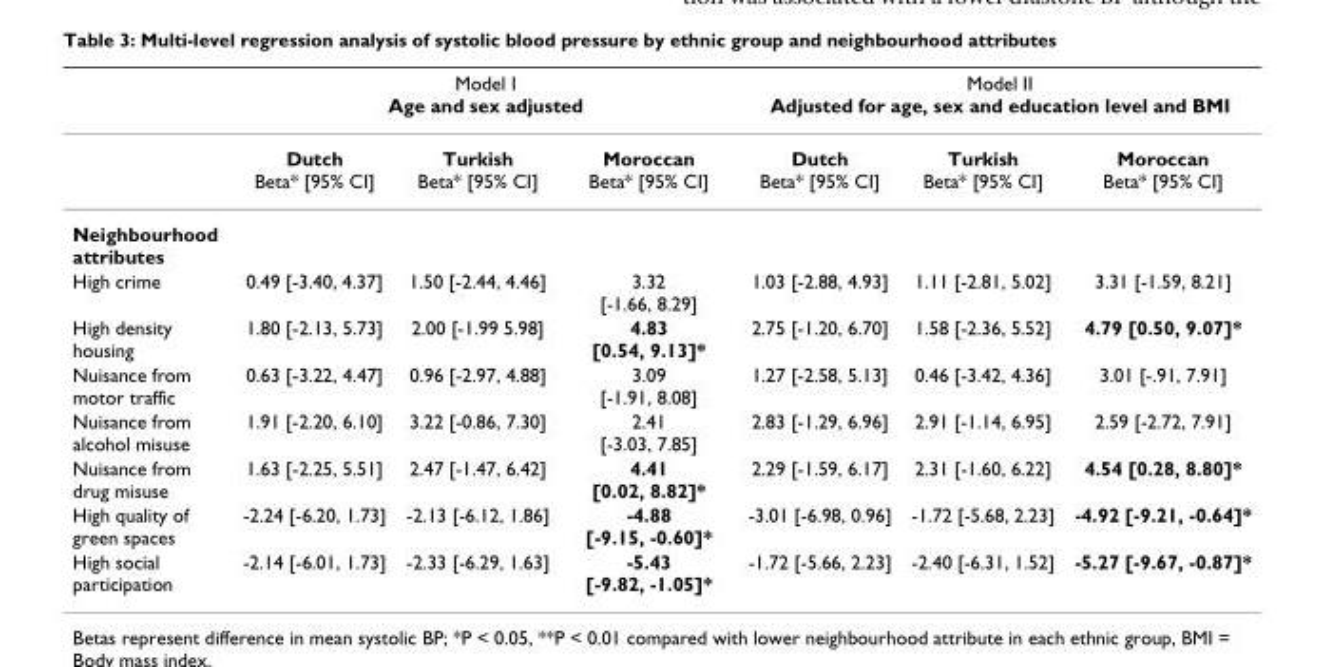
<table><thead><tr><td rowspan="2"></td><td colspan="3">Model I Age and sex adjusted</td><td colspan="3">Model II Adjusted for age, sex and education level and BMI</td></tr><tr><td>Dutch Beta* [95% CI]</td><td>Turkish Beta* [95% CI]</td><td>Moroccan Beta* [95% CI]</td><td>Dutch Beta* [95% CI]</td><td>Turkish Beta* [95% CI]</td><td>Moroccan Beta* [95% CI]</td></tr></thead><tbody><tr><td colspan="7">Neighbourhood attributes</td></tr><tr><td>High crime</td><td>0.49 [-3.40, 4.37]</td><td>1.50 [-2.44, 4.46]</td><td>3.32 [-1.66, 8.29]</td><td>1.03 [-2.88, 4.93]</td><td>1.11 [-2.81, 5.02]</td><td>3.31 [-1.59, 8.21]</td></tr><tr><td>High density housing</td><td>1.80 [-2.13, 5.73]</td><td>2.00 [-1.99 5.98]</td><td>4.83 [0.54, 9.13]*</td><td>2.75 [-1.20, 6.70]</td><td>1.58 [-2.36, 5.52]</td><td>4.79 [0.50, 9.07]*</td></tr><tr><td>Nuisance from motor traffic</td><td>0.63 [-3.22, 4.47]</td><td>0.96 [-2.97, 4.88]</td><td>3.09 [-1.91, 8.08]</td><td>1.27 [-2.58, 5.13]</td><td>0.46 [-3.42, 4.36]</td><td>3.01 [-.91, 7.91]</td></tr><tr><td>Nuisance from alcohol misuse</td><td>1.91 [-2.20, 6.10]</td><td>3.22 [-0.86, 7.30]</td><td>2.41 [-3.03, 7.85]</td><td>2.83 [-1.29, 6.96]</td><td>2.91 [-1.14, 6.95]</td><td>2.59 [-2.72, 7.91]</td></tr><tr><td>Nuisance from drug misuse</td><td>1.63 [-2.25, 5.51]</td><td>2.47 [-1.47, 6.42]</td><td>4.41 [0.02, 8.82]*</td><td>2.29 [-1.59, 6.17]</td><td>2.31 [-1.60, 6.22]</td><td>4.54 [0.28, 8.80]*</td></tr><tr><td>High quality of green spaces</td><td>-2.24 [-6.20, 1.73]</td><td>-2.13 [-6.12, 1.86]</td><td>-4.88 [-9.15, -0.60]*</td><td>-3.01 [-6.98, 0.96]</td><td>-1.72 [-5.68, 2.23]</td><td>-4.92 [-9.21, -0.64]*</td></tr><tr><td>High social participation</td><td>-2.14 [-6.01, 1.73]</td><td>-2.33 [-6.29, 1.63]</td><td>-5.43 [-9.82, -1.05]*</td><td>-1.72 [-5.66, 2.23]</td><td>-2.40 [-6.31, 1.52]</td><td>-5.27 [-9.67, -0.87]*</td></tr></tbody></table>